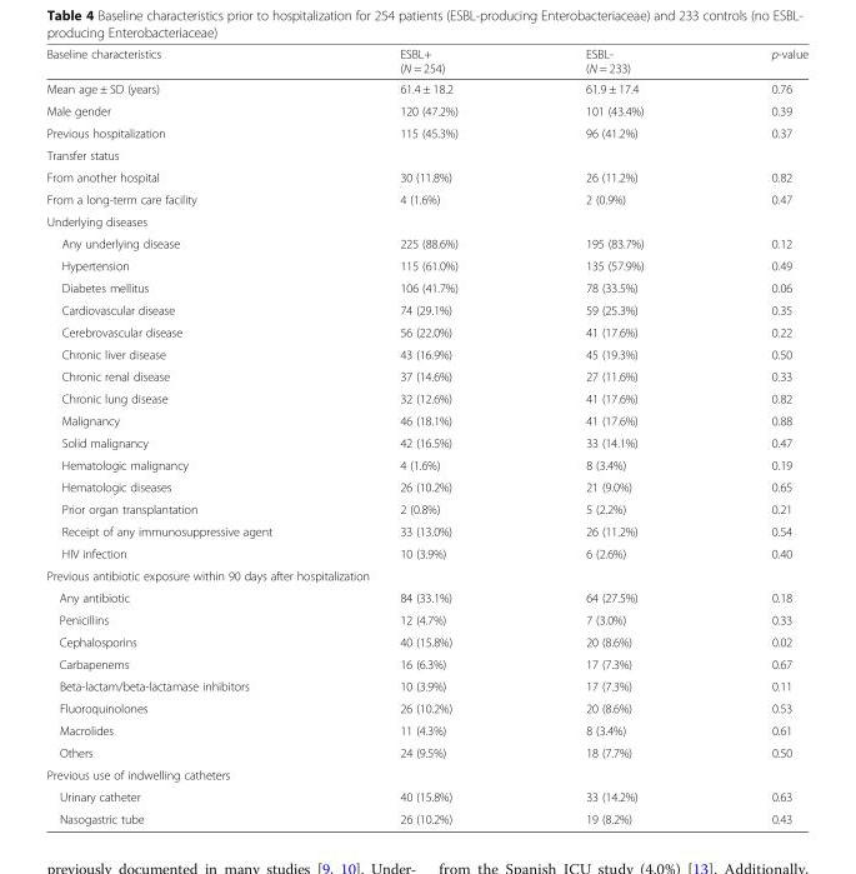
<table><thead><tr><td>Baseline characteristics</td><td>ESBL+ (N = 254)</td><td>ESBL- (N = 233)</td><td>p-value</td></tr></thead><tbody><tr><td>Mean age ± SD (years)</td><td>61.4 ± 18.2</td><td>61.9 ± 17.4</td><td>0.76</td></tr><tr><td>Male gender</td><td>120 (47.2%)</td><td>101 (43.4%)</td><td>0.39</td></tr><tr><td>Previous hospitalization</td><td>115 (45.3%)</td><td>96 (41.2%)</td><td>0.37</td></tr><tr><td colspan="4">Transfer status</td></tr><tr><td>From another hospital</td><td>30 (11.8%)</td><td>26 (11.2%)</td><td>0.82</td></tr><tr><td>From a long-term care facility</td><td>4 (1.6%)</td><td>2 (0.9%)</td><td>0.47</td></tr><tr><td colspan="4">Underlying diseases</td></tr><tr><td>Any underlying disease</td><td>225 (88.6%)</td><td>195 (83.7%)</td><td>0.12</td></tr><tr><td>Hypertension</td><td>115 (61.0%)</td><td>135 (57.9%)</td><td>0.49</td></tr><tr><td>Diabetes mellitus</td><td>106 (41.7%)</td><td>78 (33.5%)</td><td>0.06</td></tr><tr><td>Cardiovascular disease</td><td>74 (29.1%)</td><td>59 (25.3%)</td><td>0.35</td></tr><tr><td>Cerebrovascular disease</td><td>56 (22.0%)</td><td>41 (17.6%)</td><td>0.22</td></tr><tr><td>Chronic liver disease</td><td>43 (16.9%)</td><td>45 (19.3%)</td><td>0.50</td></tr><tr><td>Chronic renal disease</td><td>37 (14.6%)</td><td>27 (11.6%)</td><td>0.33</td></tr><tr><td>Chronic lung disease</td><td>32 (12.6%)</td><td>41 (17.6%)</td><td>0.82</td></tr><tr><td>Malignancy</td><td>46 (18.1%)</td><td>41 (17.6%)</td><td>0.88</td></tr><tr><td>Solid malignancy</td><td>42 (16.5%)</td><td>33 (14.1%)</td><td>0.47</td></tr><tr><td>Hematologic malignancy</td><td>4 (1.6%)</td><td>8 (3.4%)</td><td>0.19</td></tr><tr><td>Hematologic diseases</td><td>26 (10.2%)</td><td>21 (9.0%)</td><td>0.65</td></tr><tr><td>Prior organ transplantation</td><td>2 (0.8%)</td><td>5 (2.2%)</td><td>0.21</td></tr><tr><td>Receipt of any immunosuppressive agent</td><td>33 (13.0%)</td><td>26 (11.2%)</td><td>0.54</td></tr><tr><td>HIV infection</td><td>10 (3.9%)</td><td>6 (2.6%)</td><td>0.40</td></tr><tr><td colspan="4">Previous antibiotic exposure within 90 days after hospitalization</td></tr><tr><td>Any antibiotic</td><td>84 (33.1%)</td><td>64 (27.5%)</td><td>0.18</td></tr><tr><td>Penicillins</td><td>12 (4.7%)</td><td>7 (3.0%)</td><td>0.33</td></tr><tr><td>Cephalosporins</td><td>40 (15.8%)</td><td>20 (8.6%)</td><td>0.02</td></tr><tr><td>Carbapenems</td><td>16 (6.3%)</td><td>17 (7.3%)</td><td>0.67</td></tr><tr><td>Beta-lactam/beta-lactamase inhibitors</td><td>10 (3.9%)</td><td>17 (7.3%)</td><td>0.11</td></tr><tr><td>Fluoroquinolones</td><td>26 (10.2%)</td><td>20 (8.6%)</td><td>0.53</td></tr><tr><td>Macrolides</td><td>11 (4.3%)</td><td>8 (3.4%)</td><td>0.61</td></tr><tr><td>Others</td><td>24 (9.5%)</td><td>18 (7.7%)</td><td>0.50</td></tr><tr><td colspan="4">Previous use of indwelling catheters</td></tr><tr><td>Urinary catheter</td><td>40 (15.8%)</td><td>33 (14.2%)</td><td>0.63</td></tr><tr><td>Nasogastric tube</td><td>26 (10.2%)</td><td>19 (8.2%)</td><td>0.43</td></tr></tbody></table>